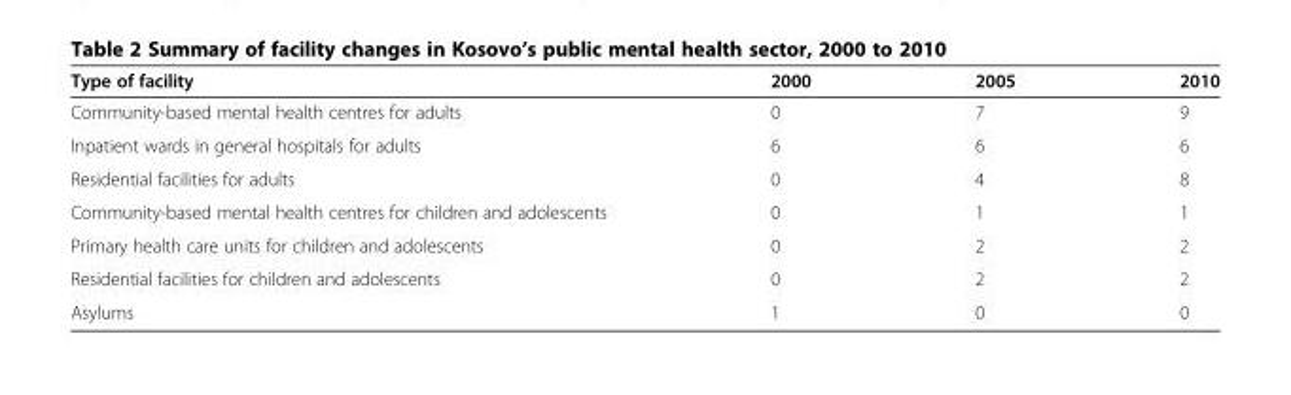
<table><thead><tr><td>Type of facility</td><td>2000</td><td>2005</td><td>2010</td></tr></thead><tbody><tr><td>Community-based mental health centres for adults</td><td>0</td><td>7</td><td>9</td></tr><tr><td>Inpatient wards in general hospitals for adults</td><td>6</td><td>6</td><td>6</td></tr><tr><td>Residential facilities for adults</td><td>0</td><td>4</td><td>8</td></tr><tr><td>Community-based mental health centres for children and adolescents</td><td>0</td><td>1</td><td>1</td></tr><tr><td>Primary health care units for children and adolescents</td><td>0</td><td>2</td><td>2</td></tr><tr><td>Residential facilities for children and adolescents</td><td>0</td><td>2</td><td>2</td></tr><tr><td>Asylums</td><td>1</td><td>0</td><td>0</td></tr></tbody></table>